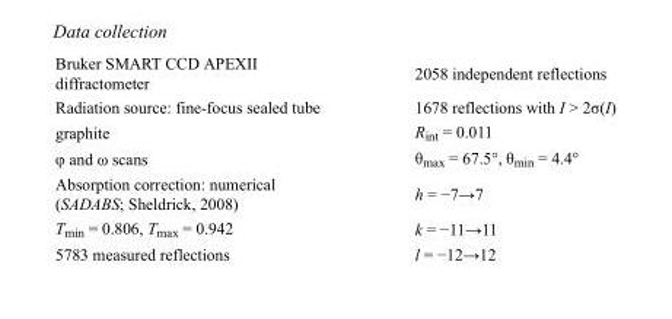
<table><tbody><tr><td>Bruker SMART CCD APEXII diffractometer</td><td>2058 independent reflections</td></tr><tr><td>Radiation source: fine-focus sealed tube</td><td>1678 reflections with I &gt; 2σ(I)</td></tr><tr><td>graphite</td><td>R<sub>int</sub> = 0.011</td></tr><tr><td>φ and ω scans</td><td>θ<sub>max</sub> = 67.5°, θ<sub>min</sub> = 4.4°</td></tr><tr><td>Absorption correction: numerical (SADABS; Sheldrick, 2008)</td><td>h = −7→7</td></tr><tr><td>T<sub>min</sub> = 0.806, T<sub>max</sub> = 0.942</td><td>k = −11→11</td></tr><tr><td>5783 measured reflections</td><td>l = −12→12</td></tr></tbody></table>